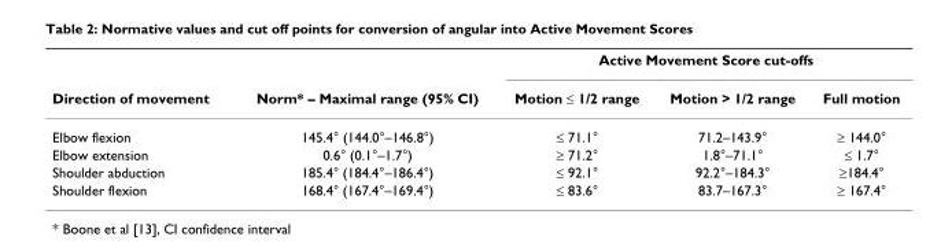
<table><thead><tr><td rowspan="2">Direction of movement</td><td rowspan="2">Norm* – Maximal range (95% CI)</td><td colspan="3">Active Movement Score cut-offs</td></tr><tr><td>Motion ≤ 1/2 range</td><td>Motion &gt; 1/2 range</td><td>Full motion</td></tr></thead><tbody><tr><td>Elbow flexion</td><td>145.4° (144.0°–146.8°)</td><td>≤ 71.1°</td><td>71.2–143.9°</td><td>≥ 144.0°</td></tr><tr><td>Elbow extension</td><td>0.6° (0.1°–1.7°)</td><td>≥ 71.2°</td><td>1.8°–71.1°</td><td>≤ 1.7°</td></tr><tr><td>Shoulder abduction</td><td>185.4° (184.4°–186.4°)</td><td>≤ 92.1°</td><td>92.2°–184.3°</td><td>≥184.4°</td></tr><tr><td>Shoulder flexion</td><td>168.4° (167.4°–169.4°)</td><td>≤ 83.6°</td><td>83.7–167.3°</td><td>≥ 167.4°</td></tr></tbody></table>